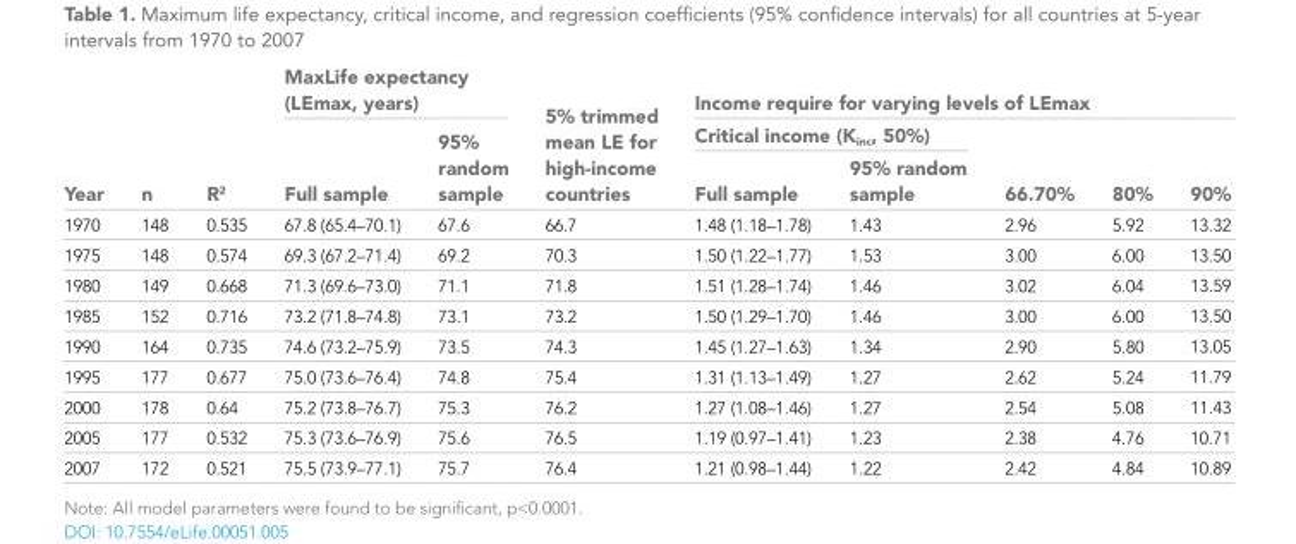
<table><thead><tr><td rowspan="3">Year</td><td rowspan="3">n</td><td rowspan="3">R<sup>2</sup></td><td colspan="2">MaxLife expectancy (LEmax, years)</td><td rowspan="3">5% trimmed mean LE for high-income countries</td><td colspan="5">Income require for varying levels of LEmax</td></tr><tr><td rowspan="2">Full sample</td><td rowspan="2">95% random sample</td><td colspan="2">Critical income (K<sub>inc</sub>, 50%)</td><td rowspan="2">66.70%</td><td rowspan="2">80%</td><td rowspan="2">90%</td></tr><tr><td>Full sample</td><td>95% random sample</td></tr></thead><tbody><tr><td>1970</td><td>148</td><td>0.535</td><td>67.8 (65.4–70.1)</td><td>67.6</td><td>66.7</td><td>1.48 (1.18–1.78)</td><td>1.43</td><td>2.96</td><td>5.92</td><td>13.32</td></tr><tr><td>1975</td><td>148</td><td>0.574</td><td>69.3 (67.2–71.4)</td><td>69.2</td><td>70.3</td><td>1.50 (1.22–1.77)</td><td>1.53</td><td>3.00</td><td>6.00</td><td>13.50</td></tr><tr><td>1980</td><td>149</td><td>0.668</td><td>71.3 (69.6–73.0)</td><td>71.1</td><td>71.8</td><td>1.51 (1.28–1.74)</td><td>1.46</td><td>3.02</td><td>6.04</td><td>13.59</td></tr><tr><td>1985</td><td>152</td><td>0.716</td><td>73.2 (71.8–74.8)</td><td>73.1</td><td>73.2</td><td>1.50 (1.29–1.70)</td><td>1.46</td><td>3.00</td><td>6.00</td><td>13.50</td></tr><tr><td>1990</td><td>164</td><td>0.735</td><td>74.6 (73.2–75.9)</td><td>73.5</td><td>74.3</td><td>1.45 (1.27–1.63)</td><td>1.34</td><td>2.90</td><td>5.80</td><td>13.05</td></tr><tr><td>1995</td><td>177</td><td>0.677</td><td>75.0 (73.6–76.4)</td><td>74.8</td><td>75.4</td><td>1.31 (1.13–1.49)</td><td>1.27</td><td>2.62</td><td>5.24</td><td>11.79</td></tr><tr><td>2000</td><td>178</td><td>0.64</td><td>75.2 (73.8–76.7)</td><td>75.3</td><td>76.2</td><td>1.27 (1.08–1.46)</td><td>1.27</td><td>2.54</td><td>5.08</td><td>11.43</td></tr><tr><td>2005</td><td>177</td><td>0.532</td><td>75.3 (73.6–76.9)</td><td>75.6</td><td>76.5</td><td>1.19 (0.97–1.41)</td><td>1.23</td><td>2.38</td><td>4.76</td><td>10.71</td></tr><tr><td>2007</td><td>172</td><td>0.521</td><td>75.5 (73.9–77.1)</td><td>75.7</td><td>76.4</td><td>1.21 (0.98–1.44)</td><td>1.22</td><td>2.42</td><td>4.84</td><td>10.89</td></tr></tbody></table>